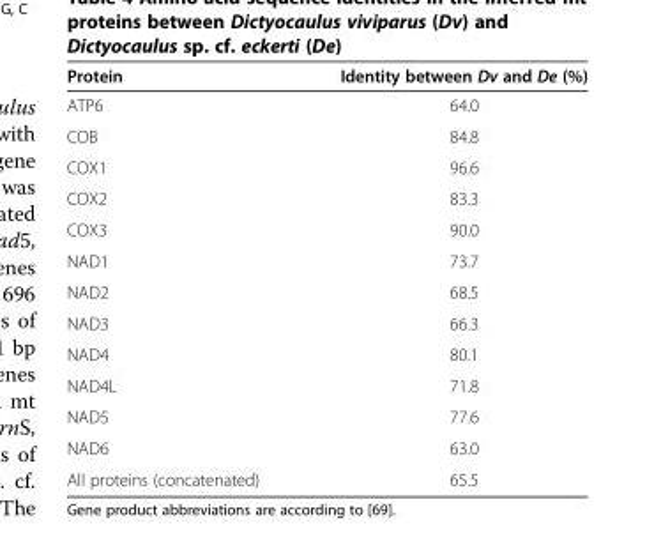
<table><thead><tr><td>Protein</td><td>Identity between Dv and De (%)</td></tr></thead><tbody><tr><td>ATP6</td><td>64.0</td></tr><tr><td>COB</td><td>84.8</td></tr><tr><td>COX1</td><td>96.6</td></tr><tr><td>COX2</td><td>83.3</td></tr><tr><td>COX3</td><td>90.0</td></tr><tr><td>NAD1</td><td>73.7</td></tr><tr><td>NAD2</td><td>68.5</td></tr><tr><td>NAD3</td><td>66.3</td></tr><tr><td>NAD4</td><td>80.1</td></tr><tr><td>NAD4L</td><td>71.8</td></tr><tr><td>NAD5</td><td>77.6</td></tr><tr><td>NAD6</td><td>63.0</td></tr><tr><td>All proteins (concatenated)</td><td>65.5</td></tr></tbody></table>